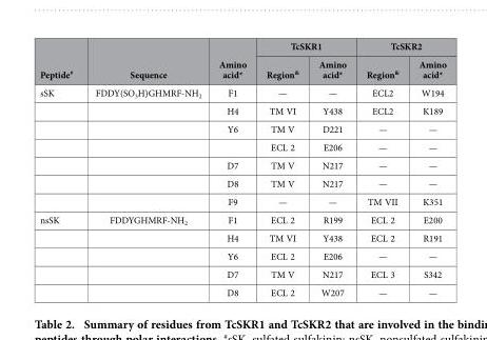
<table><thead><tr><td rowspan="2">Peptide#</td><td rowspan="2">Sequence</td><td rowspan="2">Amino acid*</td><td colspan="2">TcSKR1</td><td colspan="2">TcSKR2</td></tr><tr><td>Region&amp;</td><td>Amino acid*</td><td>Region&amp;</td><td>Amino acid*</td></tr></thead><tbody><tr><td rowspan="7">sSK</td><td>FDDY(SO<sub>3</sub>H)GHMRF-NH<sub>2</sub></td><td>F1</td><td>—</td><td>—</td><td>ECL2</td><td>W194</td></tr><tr><td></td><td>H4</td><td>TM VI</td><td>Y438</td><td>ECL2</td><td>K189</td></tr><tr><td></td><td>Y6</td><td>TM V</td><td>D221</td><td>—</td><td>—</td></tr><tr><td></td><td></td><td>ECL 2</td><td>E206</td><td>—</td><td>—</td></tr><tr><td></td><td>D7</td><td>TM V</td><td>N217</td><td>—</td><td>—</td></tr><tr><td></td><td>D8</td><td>TM V</td><td>N217</td><td>—</td><td>—</td></tr><tr><td></td><td>F9</td><td>—</td><td>—</td><td>TM VII</td><td>K351</td></tr><tr><td rowspan="5">nsSK</td><td>FDDYGHMRF-NH<sub>2</sub></td><td>F1</td><td>ECL 2</td><td>R199</td><td>ECL 2</td><td>E200</td></tr><tr><td></td><td>H4</td><td>TM VI</td><td>Y438</td><td>ECL 2</td><td>R191</td></tr><tr><td></td><td>Y6</td><td>ECL 2</td><td>E206</td><td>—</td><td>—</td></tr><tr><td></td><td>D7</td><td>TM V</td><td>N217</td><td>ECL 3</td><td>S342</td></tr><tr><td></td><td>D8</td><td>ECL 2</td><td>W207</td><td>—</td><td>—</td></tr></tbody></table>